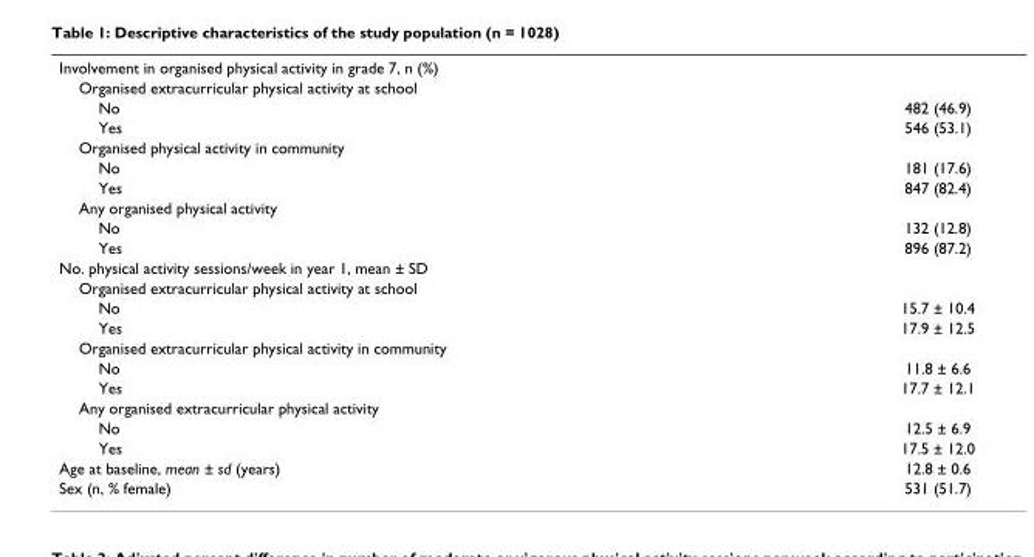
<table><tbody><tr><td colspan="2">Involvement in organised physical activity in grade 7, n (%)</td></tr><tr><td colspan="2">Organised extracurricular physical activity at school</td></tr><tr><td>No</td><td>482 (46.9)</td></tr><tr><td>Yes</td><td>546 (53.1)</td></tr><tr><td colspan="2">Organised physical activity in community</td></tr><tr><td>No</td><td>181 (17.6)</td></tr><tr><td>Yes</td><td>847 (82.4)</td></tr><tr><td colspan="2">Any organised physical activity</td></tr><tr><td>No</td><td>132 (12.8)</td></tr><tr><td>Yes</td><td>896 (87.2)</td></tr><tr><td colspan="2">No. physical activity sessions/week in year 1, mean ± SD</td></tr><tr><td colspan="2">Organised extracurricular physical activity at school</td></tr><tr><td>No</td><td>15.7 ± 10.4</td></tr><tr><td>Yes</td><td>17.9 ± 12.5</td></tr><tr><td colspan="2">Organised extracurricular physical activity in community</td></tr><tr><td>No</td><td>11.8 ± 6.6</td></tr><tr><td>Yes</td><td>17.7 ± 12.1</td></tr><tr><td colspan="2">Any organised extracurricular physical activity</td></tr><tr><td>No</td><td>12.5 ± 6.9</td></tr><tr><td>Yes</td><td>17.5 ± 12.0</td></tr><tr><td>Age at baseline, mean ± sd (years)</td><td>12.8 ± 0.6</td></tr><tr><td>Sex (n, % female)</td><td>531 (51.7)</td></tr></tbody></table>